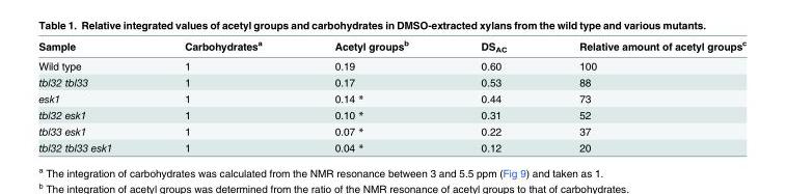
<table><thead><tr><td>Sample</td><td>Carbohydrates<sup>a</sup></td><td>Acetyl groups<sup>b</sup></td><td>DS<sub>AC</sub></td><td>Relative amount of acetyl groups<sup>c</sup></td></tr></thead><tbody><tr><td>Wild type</td><td>1</td><td>0.19</td><td>0.60</td><td>100</td></tr><tr><td>tbl32 tbl33</td><td>1</td><td>0.17</td><td>0.53</td><td>88</td></tr><tr><td>esk1</td><td>1</td><td>0.14 *</td><td>0.44</td><td>73</td></tr><tr><td>tbl32 esk1</td><td>1</td><td>0.10 *</td><td>0.31</td><td>52</td></tr><tr><td>tbl33 esk1</td><td>1</td><td>0.07 *</td><td>0.22</td><td>37</td></tr><tr><td>tbl32 tbl33 esk1</td><td>1</td><td>0.04 *</td><td>0.12</td><td>20</td></tr></tbody></table>